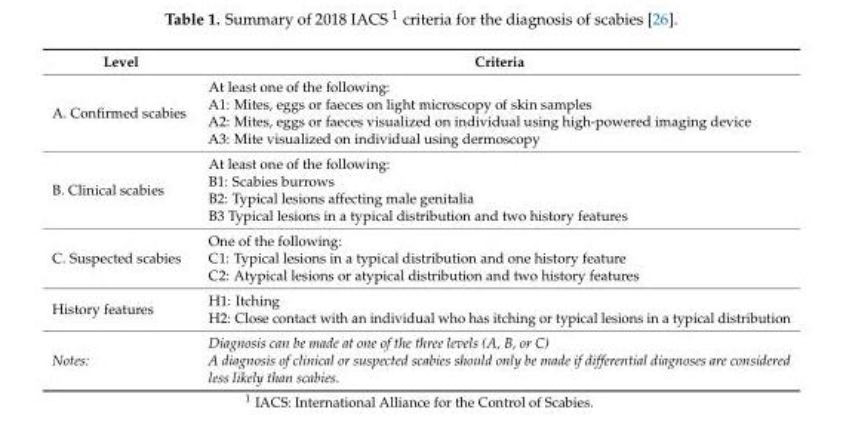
<table><thead><tr><td>Level</td><td>Criteria</td></tr></thead><tbody><tr><td>A. Confirmed scabies</td><td>At least one of the following: A1: Mites, eggs or faeces on light microscopy of skin samples A2: Mites, eggs or faeces visualized on individual using high-powered imaging device A3: Mite visualized on individual using dermoscopy</td></tr><tr><td>B. Clinical scabies</td><td>At least one of the following: B1: Scabies burrows B2: Typical lesions affecting male genitalia B3 Typical lesions in a typical distribution and two history features</td></tr><tr><td>C. Suspected scabies</td><td>One of the following: C1: Typical lesions in a typical distribution and one history feature C2: Atypical lesions or atypical distribution and two history features</td></tr><tr><td>History features</td><td>H1: Itching H2: Close contact with an individual who has itching or typical lesions in a typical distribution</td></tr><tr><td>Notes:</td><td>Diagnosis can be made at one of the three levels (A, B, or C) A diagnosis of clinical or suspected scabies should only be made if differential diagnoses are considered less likely than scabies.</td></tr></tbody></table>